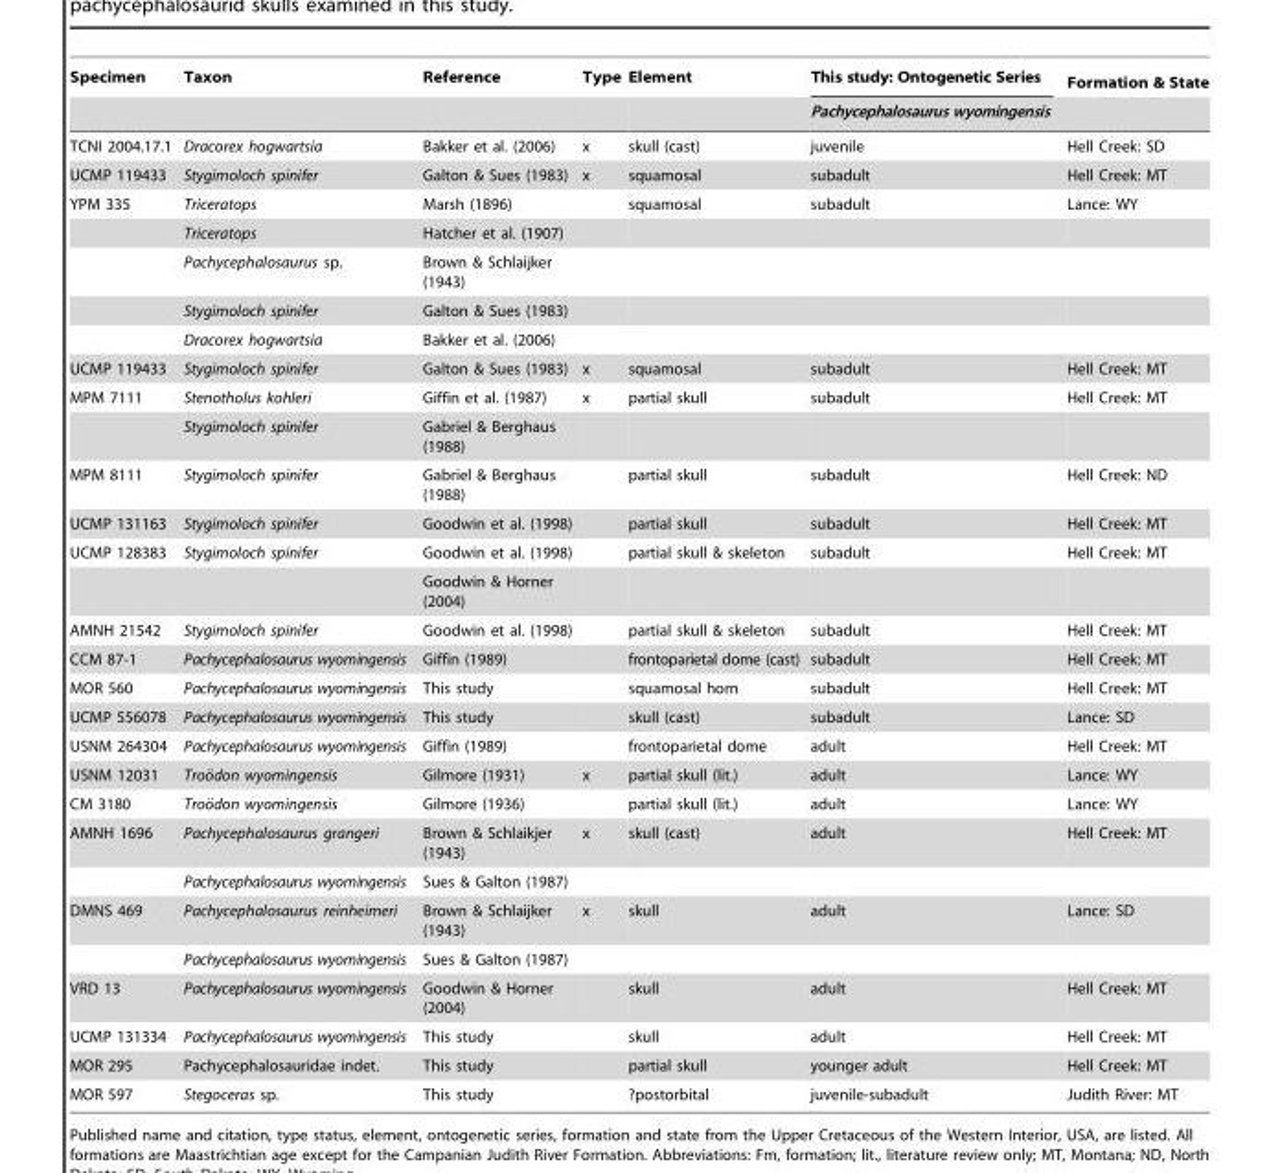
<table><thead><tr><td rowspan="2">Specimen</td><td rowspan="2">Taxon</td><td rowspan="2">Reference</td><td rowspan="2">Type</td><td rowspan="2">Element</td><td>This study: Ontogenetic Series</td><td>Formation &amp; State</td></tr><tr><td colspan="2">Pachycephalosaurus wyomingensis</td></tr></thead><tbody><tr><td>TCNI 2004.17.1</td><td>Dracorex hogwartsia</td><td>Bakker et al. (2006)</td><td>x</td><td>skull (cast)</td><td>juvenile</td><td>Hell Creek: SD</td></tr><tr><td>UCMP 119433</td><td>Stygimoloch spinifer</td><td>Galton &amp; Sues (1983)</td><td>x</td><td>squamosal</td><td>subadult</td><td>Hell Creek: MT</td></tr><tr><td rowspan="5">YPM 335</td><td>Triceratops</td><td>Marsh (1896)</td><td></td><td>squamosal</td><td>subadult</td><td>Lance: WY</td></tr><tr><td>Triceratops</td><td>Hatcher et al. (1907)</td><td></td><td></td><td></td><td></td></tr><tr><td>Pachycephalosaurus sp.</td><td>Brown &amp; Schlaijker (1943)</td><td></td><td></td><td></td><td></td></tr><tr><td>Stygimoloch spinifer</td><td>Galton &amp; Sues (1983)</td><td></td><td></td><td></td><td></td></tr><tr><td>Dracorex hogwartsia</td><td>Bakker et al. (2006)</td><td></td><td></td><td></td><td></td></tr><tr><td>UCMP 119433</td><td>Stygimoloch spinifer</td><td>Galton &amp; Sues (1983)</td><td>x</td><td>squamosal</td><td>subadult</td><td>Hell Creek: MT</td></tr><tr><td rowspan="2">MPM 7111</td><td>Stenotholus kohleri</td><td>Giffin et al. (1987)</td><td>x</td><td>partial skull</td><td>subadult</td><td>Hell Creek: MT</td></tr><tr><td>Stygimoloch spinifer</td><td>Gabriel &amp; Berghaus (1988)</td><td></td><td></td><td></td><td></td></tr><tr><td>MPM 8111</td><td>Stygimoloch spinifer</td><td>Gabriel &amp; Berghaus (1988)</td><td></td><td>partial skull</td><td>subadult</td><td>Hell Creek: ND</td></tr><tr><td>UCMP 131163</td><td>Stygimoloch spinifer</td><td>Goodwin et al. (1998)</td><td></td><td>partial skull</td><td>subadult</td><td>Hell Creek: MT</td></tr><tr><td rowspan="2">UCMP 128383</td><td>Stygimoloch spinifer</td><td>Goodwin et al. (1998)</td><td></td><td>partial skull &amp; skeleton</td><td>subadult</td><td>Hell Creek: MT</td></tr><tr><td></td><td>Goodwin &amp; Horner (2004)</td><td></td><td></td><td></td><td></td></tr><tr><td>AMNH 21542</td><td>Stygimoloch spinifer</td><td>Goodwin et al. (1998)</td><td></td><td>partial skull &amp; skeleton</td><td>subadult</td><td>Hell Creek: MT</td></tr><tr><td>CCM 87-1</td><td>Pachycephalosaurus wyomingensis</td><td>Giffin (1989)</td><td></td><td>frontoparietal dome (cast)</td><td>subadult</td><td>Hell Creek: MT</td></tr><tr><td>MOR 560</td><td>Pachycephalosaurus wyomingensis</td><td>This study</td><td></td><td>squamosal horn</td><td>subadult</td><td>Hell Creek: MT</td></tr><tr><td>UCMP 556078</td><td>Pachycephalosaurus wyomingensis</td><td>This study</td><td></td><td>skull (cast)</td><td>subadult</td><td>Lance: SD</td></tr><tr><td>USNM 264304</td><td>Pachycephalosaurus wyomingensis</td><td>Giffin (1989)</td><td></td><td>frontoparietal dome</td><td>adult</td><td>Hell Creek: MT</td></tr><tr><td>USNM 12031</td><td>Troo¨don wyomingensis</td><td>Gilmore (1931)</td><td>x</td><td>partial skull (lit.)</td><td>adult</td><td>Lance: WY</td></tr><tr><td>CM 3180</td><td>Troo¨don wyomingensis</td><td>Gilmore (1936)</td><td></td><td>partial skull (lit.)</td><td>adult</td><td>Lance: WY</td></tr><tr><td rowspan="2">AMNH 1696</td><td>Pachycephalosaurus grangeri</td><td>Brown &amp; Schlaikjer (1943)</td><td>x</td><td>skull (cast)</td><td>adult</td><td>Hell Creek: MT</td></tr><tr><td>Pachycephalosaurus wyomingensis</td><td>Sues &amp; Galton (1987)</td><td></td><td></td><td></td><td></td></tr><tr><td rowspan="2">DMNS 469</td><td>Pachycephalosaurus reinheimeri</td><td>Brown &amp; Schlaijker (1943)</td><td>x</td><td>skull</td><td>adult</td><td>Lance: SD</td></tr><tr><td>Pachycephalosaurus wyomingensis</td><td>Sues &amp; Galton (1987)</td><td></td><td></td><td></td><td></td></tr><tr><td>VRD 13</td><td>Pachycephalosaurus wyomingensis</td><td>Goodwin &amp; Horner (2004)</td><td></td><td>skull</td><td>adult</td><td>Hell Creek: MT</td></tr><tr><td>UCMP 131334</td><td>Pachycephalosaurus wyomingensis</td><td>This study</td><td></td><td>skull</td><td>adult</td><td>Hell Creek: MT</td></tr><tr><td>MOR 295</td><td>Pachycephalosauridae indet.</td><td>This study</td><td></td><td>partial skull</td><td>younger adult</td><td>Hell Creek: MT</td></tr><tr><td>MOR 597</td><td>Stegoceras sp.</td><td>This study</td><td></td><td>?postorbital</td><td>juvenile-subadult</td><td>Judith River: MT</td></tr></tbody></table>